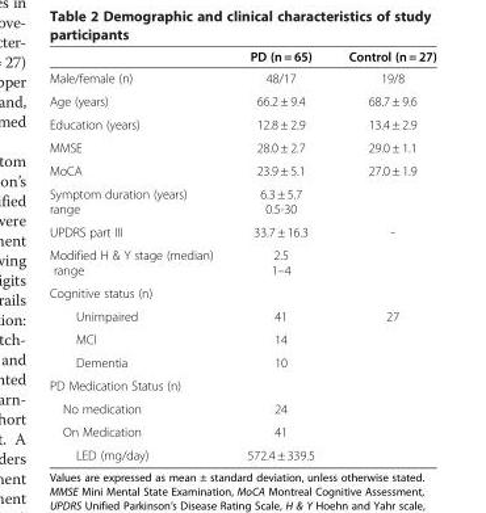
<table><thead><tr><td></td><td>PD (n = 65)</td><td>Control (n = 27)</td></tr></thead><tbody><tr><td>Male/female (n)</td><td>48/17</td><td>19/8</td></tr><tr><td>Age (years)</td><td>66.2 ± 9.4</td><td>68.7 ± 9.6</td></tr><tr><td>Education (years)</td><td>12.8 ± 2.9</td><td>13.4 ± 2.9</td></tr><tr><td>MMSE</td><td>28.0 ± 2.7</td><td>29.0 ± 1.1</td></tr><tr><td>MoCA</td><td>23.9 ± 5.1</td><td>27.0 ± 1.9</td></tr><tr><td>Symptom duration (years)</td><td>6.3 ± 5.7</td><td></td></tr><tr><td>range</td><td>0.5-30</td><td></td></tr><tr><td>UPDRS part III</td><td>33.7 ± 16.3</td><td>-</td></tr><tr><td>Modified H &amp; Y stage (median)</td><td>2.5</td><td></td></tr><tr><td>range</td><td>1–4</td><td></td></tr><tr><td colspan="3">Cognitive status (n)</td></tr><tr><td>Unimpaired</td><td>41</td><td>27</td></tr><tr><td>MCI</td><td>14</td><td></td></tr><tr><td>Dementia</td><td>10</td><td></td></tr><tr><td colspan="3">PD Medication Status (n)</td></tr><tr><td>No medication</td><td>24</td><td></td></tr><tr><td>On Medication</td><td>41</td><td></td></tr><tr><td>LED (mg/day)</td><td>572.4 ± 339.5</td><td></td></tr></tbody></table>